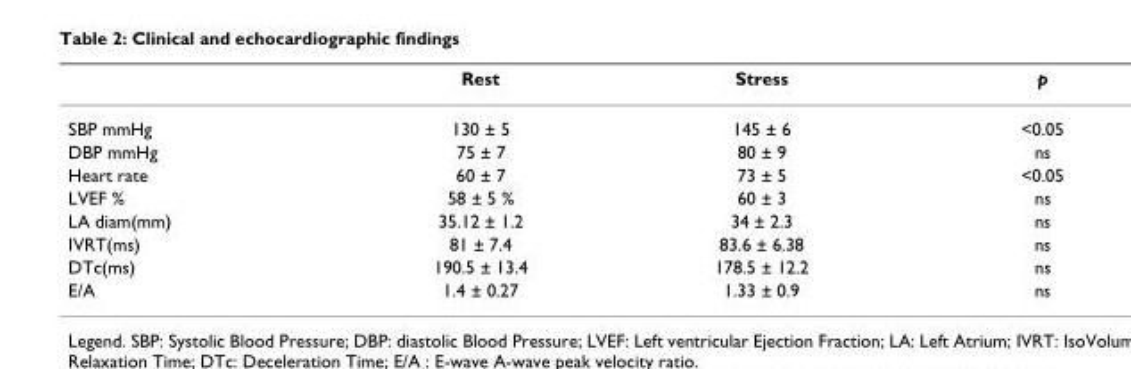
<table><thead><tr><td></td><td>Rest</td><td>Stress</td><td>p</td></tr></thead><tbody><tr><td>SBP mmHg</td><td>130 ± 5</td><td>145 ± 6</td><td>&lt;0.05</td></tr><tr><td>DBP mmHg</td><td>75 ± 7</td><td>80 ± 9</td><td>ns</td></tr><tr><td>Heart rate</td><td>60 ± 7</td><td>73 ± 5</td><td>&lt;0.05</td></tr><tr><td>LVEF %</td><td>58 ± 5 %</td><td>60 ± 3</td><td>ns</td></tr><tr><td>LA diam(mm)</td><td>35.12 ± 1.2</td><td>34 ± 2.3</td><td>ns</td></tr><tr><td>IVRT(ms)</td><td>81 ± 7.4</td><td>83.6 ± 6.38</td><td>ns</td></tr><tr><td>DTc(ms)</td><td>190.5 ± 13.4</td><td>178.5 ± 12.2</td><td>ns</td></tr><tr><td>E/A</td><td>1.4 ± 0.27</td><td>1.33 ± 0.9</td><td>ns</td></tr></tbody></table>